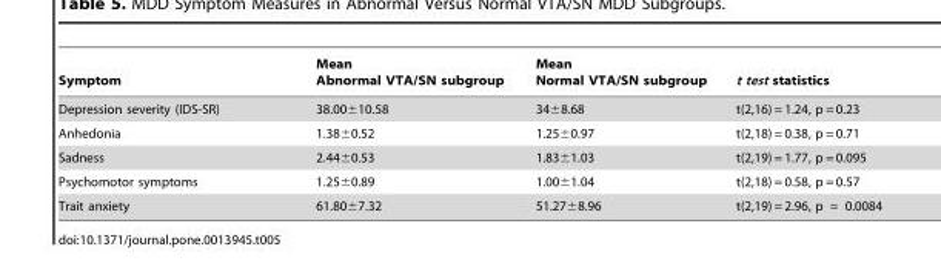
<table><thead><tr><td>Symptom</td><td>Mean Abnormal VTA/SN subgroup</td><td>Mean Normal VTA/SN subgroup</td><td>t test statistics</td></tr></thead><tbody><tr><td>Depression severity (IDS-SR)</td><td>38.00±10.58</td><td>34±8.68</td><td>t(2,16) = 1.24, p = 0.23</td></tr><tr><td>Anhedonia</td><td>1.38±0.52</td><td>1.25±0.97</td><td>t(2,18) = 0.38, p = 0.71</td></tr><tr><td>Sadness</td><td>2.44±0.53</td><td>1.83±1.03</td><td>t(2,19) = 1.77, p = 0.095</td></tr><tr><td>Psychomotor symptoms</td><td>1.25±0.89</td><td>1.00±1.04</td><td>t(2,18) = 0.58, p = 0.57</td></tr><tr><td>Trait anxiety</td><td>61.80±7.32</td><td>51.27±8.96</td><td>t(2,19) = 2.96, p = 0.0084</td></tr></tbody></table>